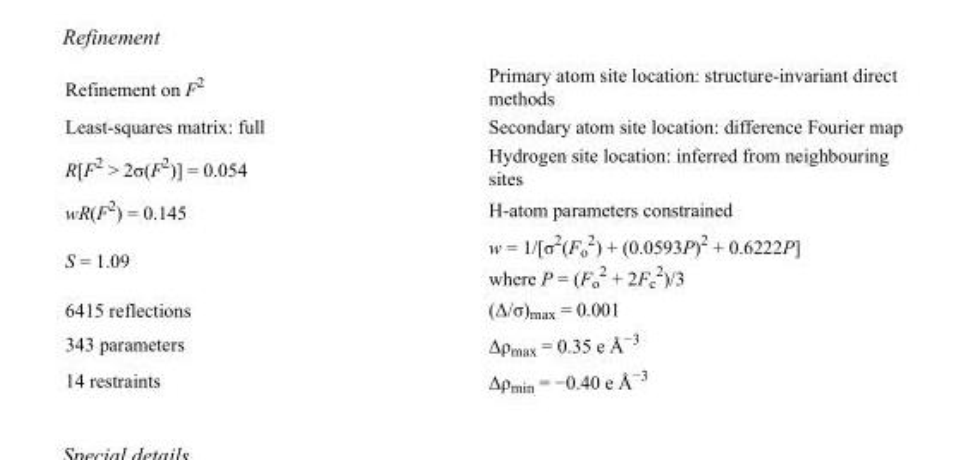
<table><tbody><tr><td>Refinement on F<sup>2</sup></td><td>Primary atom site location: structure-invariant direct methods</td></tr><tr><td>Least-squares matrix: full</td><td>Secondary atom site location: difference Fourier map</td></tr><tr><td>R[F<sup>2</sup> &gt; 2σ(F<sup>2</sup>)] = 0.054</td><td>Hydrogen site location: inferred from neighbouring sites</td></tr><tr><td>wR(F<sup>2</sup>) = 0.145</td><td>H-atom parameters constrained</td></tr><tr><td>S = 1.09</td><td>w = 1/[σ<sup>2</sup>(F<sub>o</sub> <sup>2</sup>) + (0.0593P)<sup>2</sup> + 0.6222P] where P = (F<sub>o</sub> <sup>2</sup> + 2F<sub>c</sub> <sup>2</sup>)/3</td></tr><tr><td>6415 reflections</td><td>(Δ/σ)<sub>max</sub> = 0.001</td></tr><tr><td>343 parameters</td><td>Δρ<sub>max</sub> = 0.35 e Å<sup>−3</sup></td></tr><tr><td>14 restraints</td><td>Δρ<sub>min</sub> = −0.40 e Å<sup>−3</sup></td></tr></tbody></table>